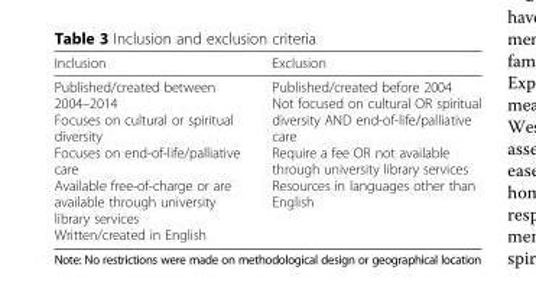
<table><thead><tr><td>Inclusion</td><td>Exclusion</td></tr></thead><tbody><tr><td>Published/created between 2004–2014 Focuses on cultural or spiritual diversity Focuses on end-of-life/palliative care Available free-of-charge or are available through university library services Written/created in English</td><td>Published/created before 2004 Not focused on cultural OR spiritual diversity AND end-of-life/palliative care Require a fee OR not available through university library services Resources in languages other than English</td></tr></tbody></table>